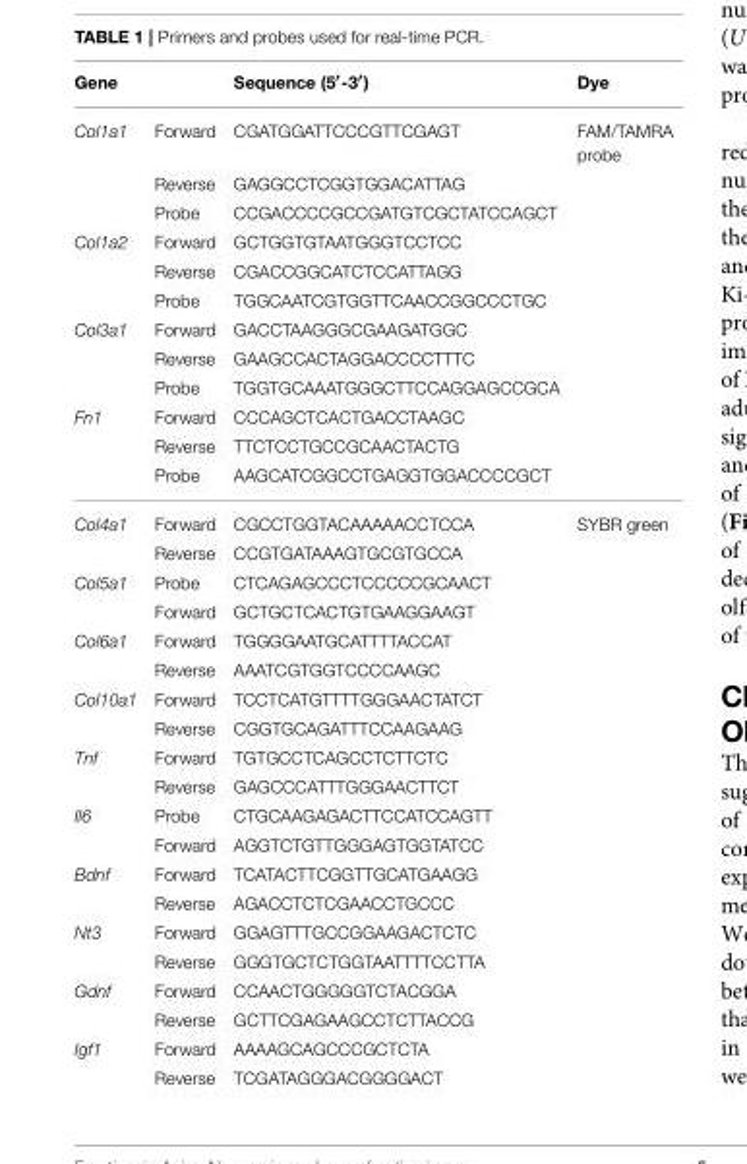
<table><thead><tr><td>Gene</td><td></td><td>Sequence (5′-3′)</td><td>Dye</td></tr></thead><tbody><tr><td rowspan="3">Col1a1</td><td>Forward</td><td>CGATGGATTCCCGTTCGAGT</td><td>FAM/TAMRA probe</td></tr><tr><td>Reverse</td><td>GAGGCCTCGGTGGACATTAG</td><td></td></tr><tr><td>Probe</td><td>CCGACCCCGCCGATGTCGCTATCCAGCT</td><td></td></tr><tr><td rowspan="3">Col1a2</td><td>Forward</td><td>GCTGGTGTAATGGGTCCTCC</td><td></td></tr><tr><td>Reverse</td><td>CGACCGGCATCTCCATTAGG</td><td></td></tr><tr><td>Probe</td><td>TGGCAATCGTGGTTCAACCGGCCCTGC</td><td></td></tr><tr><td rowspan="3">Col3a1</td><td>Forward</td><td>GACCTAAGGGCGAAGATGGC</td><td></td></tr><tr><td>Reverse</td><td>GAAGCCACTAGGACCCCTTTC</td><td></td></tr><tr><td>Probe</td><td>TGGTGCAAATGGGCTTCCAGGAGCCGCA</td><td></td></tr><tr><td rowspan="3">Fn1</td><td>Forward</td><td>CCCAGCTCACTGACCTAAGC</td><td></td></tr><tr><td>Reverse</td><td>TTCTCCTGCCGCAACTACTG</td><td></td></tr><tr><td>Probe</td><td>AAGCATCGGCCTGAGGTGGACCCCGCT</td><td></td></tr><tr><td rowspan="2">Col4a1</td><td>Forward</td><td>CGCCTGGTACAAAAACCTCCA</td><td>SYBR green</td></tr><tr><td>Reverse</td><td>CCGTGATAAAGTGCGTGCCA</td><td></td></tr><tr><td rowspan="2">Col5a1</td><td>Probe</td><td>CTCAGAGCCCTCCCCCGCAACT</td><td></td></tr><tr><td>Forward</td><td>GCTGCTCACTGTGAAGGAAGT</td><td></td></tr><tr><td rowspan="2">Col6a1</td><td>Forward</td><td>TGGGGAATGCATTTTACCAT</td><td></td></tr><tr><td>Reverse</td><td>AAATCGTGGTCCCCAAGC</td><td></td></tr><tr><td rowspan="2">Col10a1</td><td>Forward</td><td>TCCTCATGTTTTGGGAACTATCT</td><td></td></tr><tr><td>Reverse</td><td>CGGTGCAGATTTCCAAGAAG</td><td></td></tr><tr><td rowspan="2">Tnf</td><td>Forward</td><td>TGTGCCTCAGCCTCTTCTC</td><td></td></tr><tr><td>Reverse</td><td>GAGCCCATTTGGGAACTTCT</td><td></td></tr><tr><td rowspan="2">Il6</td><td>Probe</td><td>CTGCAAGAGACTTCCATCCAGTT</td><td></td></tr><tr><td>Forward</td><td>AGGTCTGTTGGGAGTGGTATCC</td><td></td></tr><tr><td rowspan="2">Bdnf</td><td>Forward</td><td>TCATACTTCGGTTGCATGAAGG</td><td></td></tr><tr><td>Reverse</td><td>AGACCTCTCGAACCTGCCC</td><td></td></tr><tr><td rowspan="2">Nt3</td><td>Forward</td><td>GGAGTTTGCCGGAAGACTCTC</td><td></td></tr><tr><td>Reverse</td><td>GGGTGCTCTGGTAATTTTCCTTA</td><td></td></tr><tr><td rowspan="2">Gdnf</td><td>Forward</td><td>CCAACTGGGGGTCTACGGA</td><td></td></tr><tr><td>Reverse</td><td>GCTTCGAGAAGCCTCTTACCG</td><td></td></tr><tr><td rowspan="2">Igf1</td><td>Forward</td><td>AAAAGCAGCCCGCTCTA</td><td></td></tr><tr><td>Reverse</td><td>TCGATAGGGACGGGGACT</td><td></td></tr></tbody></table>